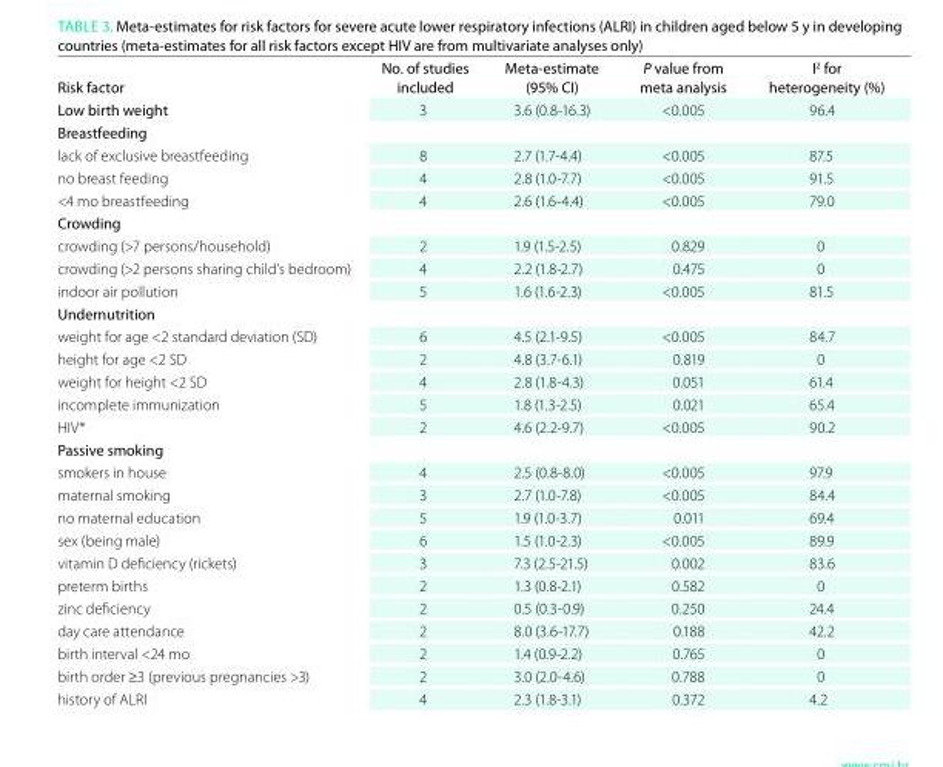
<table><thead><tr><td>Risk factor</td><td>No. of studies included</td><td>Meta-estimate (95% CI)</td><td>P value from meta analysis</td><td>I<sup>2</sup> for heterogeneity (%)</td></tr></thead><tbody><tr><td>low birth weight</td><td>3</td><td>3.6 (0.8-16.3)</td><td>&lt;0.005</td><td>96.4</td></tr><tr><td colspan="5">breastfeeding</td></tr><tr><td>lack of exclusive breastfeeding</td><td>8</td><td>2.7 (1.7-4.4)</td><td>&lt;0.005</td><td>87.5</td></tr><tr><td>no breast feeding</td><td>4</td><td>2.8 (1.0-7.7)</td><td>&lt;0.005</td><td>91.5</td></tr><tr><td>&lt;4 mo breastfeeding</td><td>4</td><td>2.6 (1.6-4.4)</td><td>&lt;0.005</td><td>79.0</td></tr><tr><td colspan="5">Crowding</td></tr><tr><td>crowding (&gt;7 persons/household)</td><td>2</td><td>1.9 (1.5-2.5)</td><td>0.829</td><td>0</td></tr><tr><td>crowding (&gt;2 persons sharing child’s bedroom)</td><td>4</td><td>2.2 (1.8-2.7)</td><td>0.475</td><td>0</td></tr><tr><td>indoor air pollution</td><td>5</td><td>1.6 (1.6-2.3)</td><td>&lt;0.005</td><td>81.5</td></tr><tr><td colspan="5">undernutrition</td></tr><tr><td>weight for age &lt;2 standard deviation (SD)</td><td>6</td><td>4.5 (2.1-9.5)</td><td>&lt;0.005</td><td>84.7</td></tr><tr><td>height for age &lt;2 SD</td><td>2</td><td>4.8 (3.7-6.1)</td><td>0.819</td><td>0</td></tr><tr><td>weight for height &lt;2 SD</td><td>4</td><td>2.8 (1.8-4.3)</td><td>0.051</td><td>61.4</td></tr><tr><td>incomplete immunization</td><td>5</td><td>1.8 (1.3-2.5)</td><td>0.021</td><td>65.4</td></tr><tr><td>HIV*</td><td>2</td><td>4.6 (2.2-9.7)</td><td>&lt;0.005</td><td>90.2</td></tr><tr><td colspan="5">Passive smoking</td></tr><tr><td>smokers in house</td><td>4</td><td>2.5 (0.8-8.0)</td><td>&lt;0.005</td><td>97.9</td></tr><tr><td>maternal smoking</td><td>3</td><td>2.7 (1.0-7.8)</td><td>&lt;0.005</td><td>84.4</td></tr><tr><td>no maternal education</td><td>5</td><td>1.9 (1.0-3.7)</td><td>0.011</td><td>69.4</td></tr><tr><td>sex (being male)</td><td>6</td><td>1.5 (1.0-2.3)</td><td>&lt;0.005</td><td>89.9</td></tr><tr><td>vitamin D deficiency (rickets)</td><td>3</td><td>7.3 (2.5-21.5)</td><td>0.002</td><td>83.6</td></tr><tr><td>preterm births</td><td>2</td><td>1.3 (0.8-2.1)</td><td>0.582</td><td>0</td></tr><tr><td>zinc deficiency</td><td>2</td><td>0.5 (0.3-0.9)</td><td>0.250</td><td>24.4</td></tr><tr><td>day care attendance</td><td>2</td><td>8.0 (3.6-17.7)</td><td>0.188</td><td>42.2</td></tr><tr><td>birth interval &lt;24 mo</td><td>2</td><td>1.4 (0.9-2.2)</td><td>0.765</td><td>0</td></tr><tr><td>birth order ≥3 (previous pregnancies &gt;3)</td><td>2</td><td>3.0 (2.0-4.6)</td><td>0.788</td><td>0</td></tr><tr><td>history of ALRI</td><td>4</td><td>2.3 (1.8-3.1)</td><td>0.372</td><td>4.2</td></tr></tbody></table>